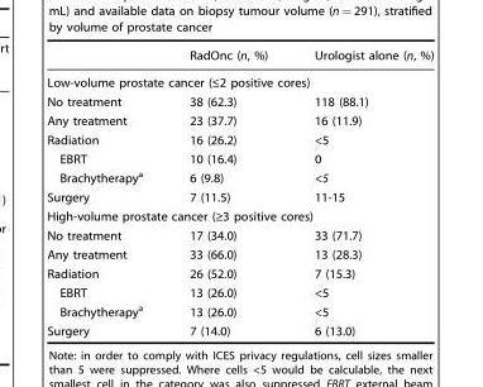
<table><thead><tr><td></td><td>RadOnc (n, %)</td><td>Urologist alone (n, %)</td></tr></thead><tbody><tr><td colspan="3">Low-volume prostate cancer (≤2 positive cores)</td></tr><tr><td>No treatment</td><td>38 (62.3)</td><td>118 (88.1)</td></tr><tr><td>Any treatment</td><td>23 (37.7)</td><td>16 (11.9)</td></tr><tr><td>Radiation</td><td>16 (26.2)</td><td>&lt;5</td></tr><tr><td>EBRT</td><td>10 (16.4)</td><td>0</td></tr><tr><td>Brachytherapy<sup>a</sup></td><td>6 (9.8)</td><td>&lt;5</td></tr><tr><td>Surgery</td><td>7 (11.5)</td><td>11-15</td></tr><tr><td colspan="3">High-volume prostate cancer (≥3 positive cores)</td></tr><tr><td>No treatment</td><td>17 (34.0)</td><td>33 (71.7)</td></tr><tr><td>Any treatment</td><td>33 (66.0)</td><td>13 (28.3)</td></tr><tr><td>Radiation</td><td>26 (52.0)</td><td>7 (15.3)</td></tr><tr><td>EBRT</td><td>13 (26.0)</td><td>&lt;5</td></tr><tr><td>Brachytherapy<sup>a</sup></td><td>13 (26.0)</td><td>&lt;5</td></tr><tr><td>Surgery</td><td>7 (14.0)</td><td>6 (13.0)</td></tr></tbody></table>